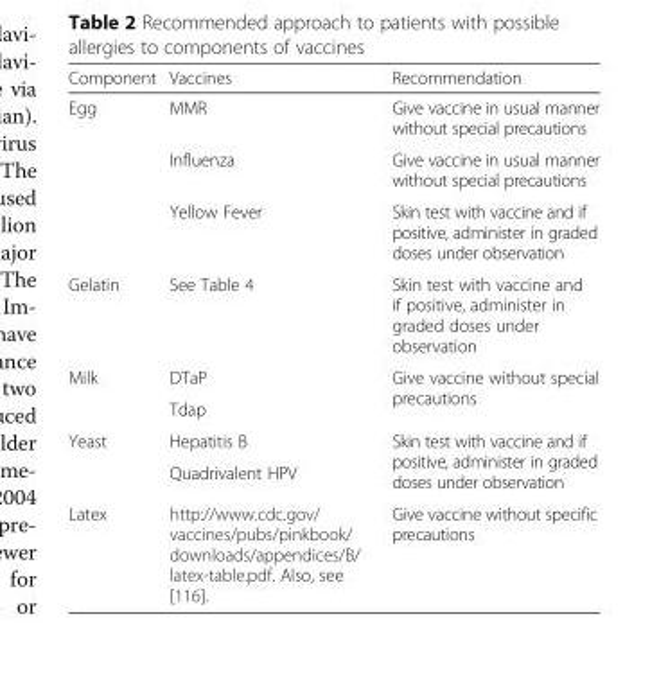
<table><thead><tr><td>Component</td><td>Vaccines</td><td>Recommendation</td></tr></thead><tbody><tr><td rowspan="3">Egg</td><td>MMR</td><td>Give vaccine in usual manner without special precautions</td></tr><tr><td>Influenza</td><td>Give vaccine in usual manner without special precautions</td></tr><tr><td>Yellow Fever</td><td>Skin test with vaccine and if positive, administer in graded doses under observation</td></tr><tr><td>Gelatin</td><td>See Table 4</td><td>Skin test with vaccine and if positive, administer in graded doses under observation</td></tr><tr><td rowspan="2">Milk</td><td>DTaP</td><td rowspan="2">Give vaccine without special precautions</td></tr><tr><td>Tdap</td></tr><tr><td rowspan="2">Yeast</td><td>Hepatitis B</td><td rowspan="2">Skin test with vaccine and if positive, administer in graded doses under observation</td></tr><tr><td>Quadrivalent HPV</td></tr><tr><td>Latex</td><td>http://www.cdc.gov/ vaccines/pubs/pinkbook/ downloads/appendices/B/ latex-table.pdf. Also, see [116].</td><td>Give vaccine without specific precautions</td></tr></tbody></table>